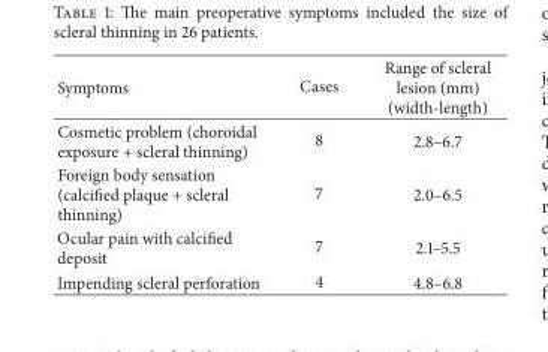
<table><thead><tr><td>Symptoms</td><td>Cases</td><td>Range of scleral lesion (mm) (width-length)</td></tr></thead><tbody><tr><td>Cosmetic problem (choroidal exposure + scleral thinning)</td><td>8</td><td>2.8–6.7</td></tr><tr><td>Foreign body sensation (calcified plaque + scleral thinning)</td><td>7</td><td>2.0–6.5</td></tr><tr><td>Ocular pain with calcified deposit</td><td>7</td><td>2.1–5.5</td></tr><tr><td>Impending scleral perforation</td><td>4</td><td>4.8–6.8</td></tr></tbody></table>